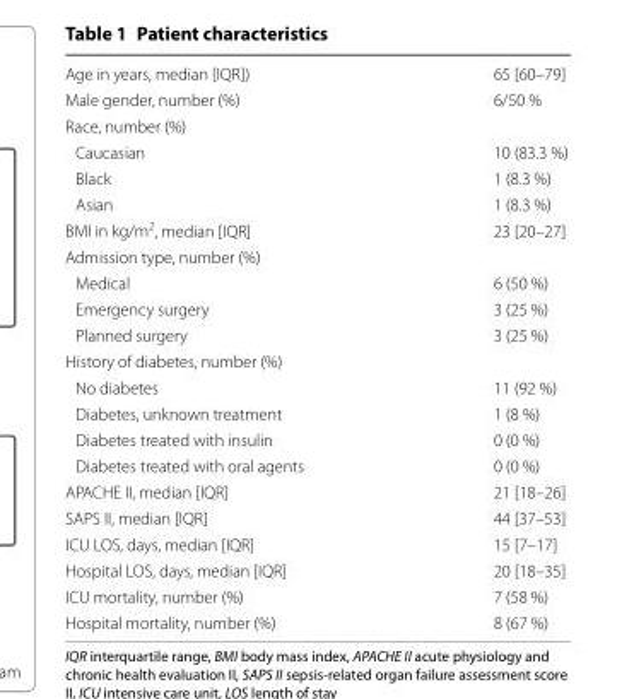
<table><tbody><tr><td>Age in years, median [IQR])</td><td>65 [60–79]</td></tr><tr><td>Male gender, number (%)</td><td>6/50 %</td></tr><tr><td colspan="2">Race, number (%)</td></tr><tr><td>Caucasian</td><td>10 (83.3 %)</td></tr><tr><td>Black</td><td>1 (8.3 %)</td></tr><tr><td>Asian</td><td>1 (8.3 %)</td></tr><tr><td>BMI in kg/m<sup>2</sup>, median [IQR]</td><td>23 [20–27]</td></tr><tr><td colspan="2">Admission type, number (%)</td></tr><tr><td>Medical</td><td>6 (50 %)</td></tr><tr><td>Emergency surgery</td><td>3 (25 %)</td></tr><tr><td>Planned surgery</td><td>3 (25 %)</td></tr><tr><td colspan="2">History of diabetes, number (%)</td></tr><tr><td>No diabetes</td><td>11 (92 %)</td></tr><tr><td>Diabetes, unknown treatment</td><td>1 (8 %)</td></tr><tr><td>Diabetes treated with insulin</td><td>0 (0 %)</td></tr><tr><td>Diabetes treated with oral agents</td><td>0 (0 %)</td></tr><tr><td>APACHE II, median [IQR]</td><td>21 [18–26]</td></tr><tr><td>SAPS II, median [IQR]</td><td>44 [37–53]</td></tr><tr><td>ICU LOS, days, median [IQR]</td><td>15 [7–17]</td></tr><tr><td>Hospital LOS, days, median [IQR]</td><td>20 [18–35]</td></tr><tr><td>ICU mortality, number (%)</td><td>7 (58 %)</td></tr><tr><td>Hospital mortality, number (%)</td><td>8 (67 %)</td></tr></tbody></table>